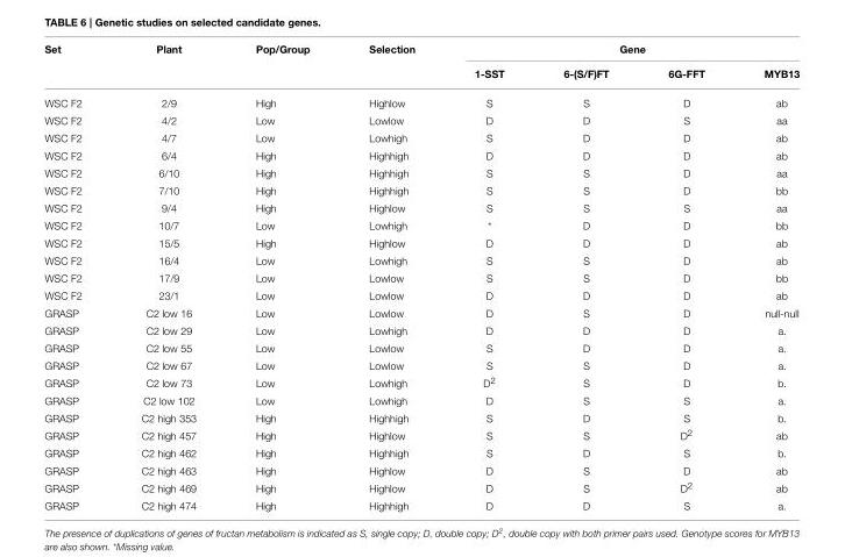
<table><thead><tr><td rowspan="2">Set</td><td rowspan="2">Plant</td><td rowspan="2">Pop/Group</td><td rowspan="2">Selection</td><td colspan="4">Gene</td></tr><tr><td>1-SST</td><td>6-(S/F)FT</td><td>6G-FFT</td><td>MYB13</td></tr></thead><tbody><tr><td>WSC F2</td><td>2/9</td><td>High</td><td>Highlow</td><td>S</td><td>S</td><td>D</td><td>ab</td></tr><tr><td>WSC F2</td><td>4/2</td><td>Low</td><td>Lowlow</td><td>D</td><td>D</td><td>S</td><td>aa</td></tr><tr><td>WSC F2</td><td>4/7</td><td>Low</td><td>Lowhigh</td><td>S</td><td>D</td><td>D</td><td>ab</td></tr><tr><td>WSC F2</td><td>6/4</td><td>High</td><td>Highhigh</td><td>D</td><td>D</td><td>D</td><td>ab</td></tr><tr><td>WSC F2</td><td>6/10</td><td>High</td><td>Highhigh</td><td>S</td><td>S</td><td>D</td><td>aa</td></tr><tr><td>WSC F2</td><td>7/10</td><td>High</td><td>Highhigh</td><td>S</td><td>S</td><td>D</td><td>bb</td></tr><tr><td>WSC F2</td><td>9/4</td><td>High</td><td>Highlow</td><td>S</td><td>S</td><td>S</td><td>aa</td></tr><tr><td>WSC F2</td><td>10/7</td><td>Low</td><td>Lowhigh</td><td>*</td><td>D</td><td>D</td><td>bb</td></tr><tr><td>WSC F2</td><td>15/5</td><td>High</td><td>Highlow</td><td>D</td><td>D</td><td>D</td><td>ab</td></tr><tr><td>WSC F2</td><td>16/4</td><td>Low</td><td>Lowhigh</td><td>S</td><td>S</td><td>D</td><td>ab</td></tr><tr><td>WSC F2</td><td>17/9</td><td>Low</td><td>Lowlow</td><td>S</td><td>S</td><td>D</td><td>bb</td></tr><tr><td>WSC F2</td><td>23/1</td><td>Low</td><td>Lowlow</td><td>D</td><td>D</td><td>D</td><td>ab</td></tr><tr><td>GRASP</td><td>C2 low 16</td><td>Low</td><td>Lowlow</td><td>D</td><td>S</td><td>D</td><td>null-null</td></tr><tr><td>GRASP</td><td>C2 low 29</td><td>Low</td><td>Lowhigh</td><td>D</td><td>D</td><td>D</td><td>a.</td></tr><tr><td>GRASP</td><td>C2 low 55</td><td>Low</td><td>Lowlow</td><td>S</td><td>D</td><td>D</td><td>a.</td></tr><tr><td>GRASP</td><td>C2 low 67</td><td>Low</td><td>Lowlow</td><td>S</td><td>S</td><td>D</td><td>a.</td></tr><tr><td>GRASP</td><td>C2 low 73</td><td>Low</td><td>Lowhigh</td><td>D<sup>2</sup></td><td>S</td><td>D</td><td>b.</td></tr><tr><td>GRASP</td><td>C2 low 102</td><td>Low</td><td>Lowhigh</td><td>D</td><td>S</td><td>S</td><td>a.</td></tr><tr><td>GRASP</td><td>C2 high 353</td><td>High</td><td>Highhigh</td><td>S</td><td>D</td><td>S</td><td>b.</td></tr><tr><td>GRASP</td><td>C2 high 457</td><td>High</td><td>Highlow</td><td>S</td><td>S</td><td>D<sup>2</sup></td><td>ab</td></tr><tr><td>GRASP</td><td>C2 high 462</td><td>High</td><td>Highhigh</td><td>S</td><td>D</td><td>S</td><td>b.</td></tr><tr><td>GRASP</td><td>C2 high 463</td><td>High</td><td>Highlow</td><td>D</td><td>S</td><td>D</td><td>ab</td></tr><tr><td>GRASP</td><td>C2 high 469</td><td>High</td><td>Highlow</td><td>D</td><td>S</td><td>D<sup>2</sup></td><td>ab</td></tr><tr><td>GRASP</td><td>C2 high 474</td><td>High</td><td>Highhigh</td><td>D</td><td>D</td><td>S</td><td>a.</td></tr></tbody></table>